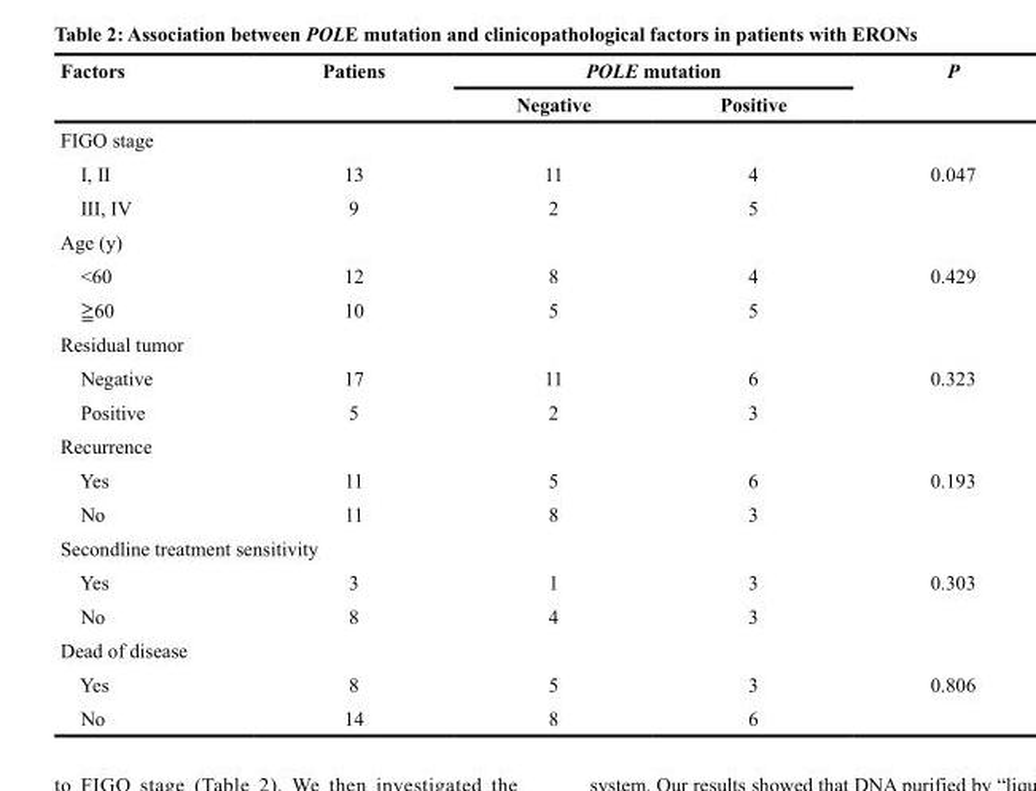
<table><thead><tr><td rowspan="2">Factors</td><td rowspan="2">Patiens</td><td colspan="2">POLE mutation</td><td rowspan="2">P</td></tr><tr><td>Negative</td><td>Positive</td></tr></thead><tbody><tr><td colspan="5">FIGO stage</td></tr><tr><td>I, II</td><td>13</td><td>11</td><td>4</td><td>0.047</td></tr><tr><td>III, IV</td><td>9</td><td>2</td><td>5</td><td></td></tr><tr><td colspan="5">Age (y)</td></tr><tr><td>&lt;60</td><td>12</td><td>8</td><td>4</td><td>0.429</td></tr><tr><td>≧60</td><td>10</td><td>5</td><td>5</td><td></td></tr><tr><td colspan="5">Residual tumor</td></tr><tr><td>Negative</td><td>17</td><td>11</td><td>6</td><td>0.323</td></tr><tr><td>Positive</td><td>5</td><td>2</td><td>3</td><td></td></tr><tr><td colspan="5">Recurrence</td></tr><tr><td>Yes</td><td>11</td><td>5</td><td>6</td><td>0.193</td></tr><tr><td>No</td><td>11</td><td>8</td><td>3</td><td></td></tr><tr><td colspan="5">Secondline treatment sensitivity</td></tr><tr><td>Yes</td><td>3</td><td>1</td><td>3</td><td>0.303</td></tr><tr><td>No</td><td>8</td><td>4</td><td>3</td><td></td></tr><tr><td colspan="5">Dead of disease</td></tr><tr><td>Yes</td><td>8</td><td>5</td><td>3</td><td>0.806</td></tr><tr><td>No</td><td>14</td><td>8</td><td>6</td><td></td></tr></tbody></table>